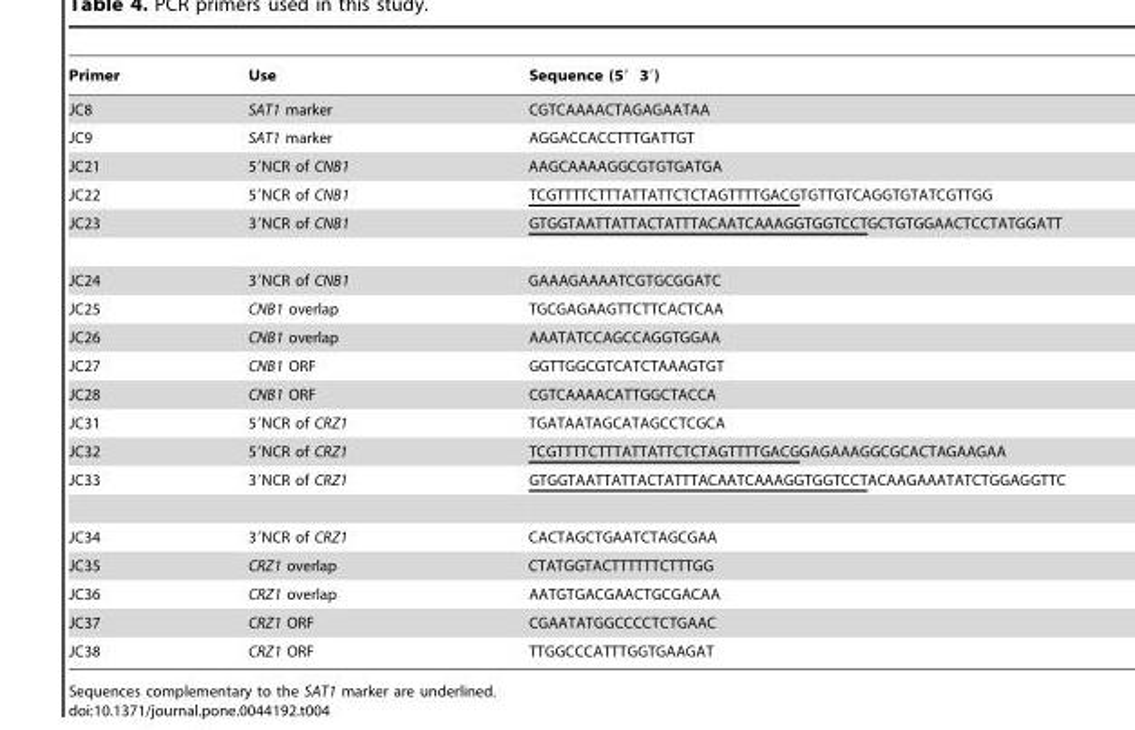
<table><thead><tr><td>Primer</td><td>Use</td><td>Sequence (5′ 3′)</td></tr></thead><tbody><tr><td>JC8</td><td>SAT1 marker</td><td>CGTCAAAACTAGAGAATAA</td></tr><tr><td>JC9</td><td>SAT1 marker</td><td>AGGACCACCTTTGATTGT</td></tr><tr><td>JC21</td><td>5′NCR of CNB1</td><td>AAGCAAAAGGCGTGTGATGA</td></tr><tr><td>JC22</td><td>5′NCR of CNB1</td><td>TCGTTTTCTTTATTATTCTCTAGTTTTGACGTGTTGTCAGGTGTATCGTTGG</td></tr><tr><td>JC23</td><td>3′NCR of CNB1</td><td>GTGGTAATTATTACTATTTACAATCAAAGGTGGTCCTGCTGTGGAACTCCTATGGATT</td></tr><tr><td>JC24</td><td>3′NCR of CNB1</td><td>GAAAGAAAATCGTGCGGATC</td></tr><tr><td>JC25</td><td>CNB1 overlap</td><td>TGCGAGAAGTTCTTCACTCAA</td></tr><tr><td>JC26</td><td>CNB1 overlap</td><td>AAATATCCAGCCAGGTGGAA</td></tr><tr><td>JC27</td><td>CNB1 ORF</td><td>GGTTGGCGTCATCTAAAGTGT</td></tr><tr><td>JC28</td><td>CNB1 ORF</td><td>CGTCAAAACATTGGCTACCA</td></tr><tr><td>JC31</td><td>5′NCR of CRZ1</td><td>TGATAATAGCATAGCCTCGCA</td></tr><tr><td>JC32</td><td>5′NCR of CRZ1</td><td>TCGTTTTCTTTATTATTCTCTAGTTTTGACGGAGAAAGGCGCACTAGAAGAA</td></tr><tr><td>JC33</td><td>3′NCR of CRZ1</td><td>GTGGTAATTATTACTATTTACAATCAAAGGTGGTCCTACAAGAAATATCTGGAGGTTC</td></tr><tr><td>JC34</td><td>3′NCR of CRZ1</td><td>CACTAGCTGAATCTAGCGAA</td></tr><tr><td>JC35</td><td>CRZ1 overlap</td><td>CTATGGTACTTTTTTCTTTGG</td></tr><tr><td>JC36</td><td>CRZ1 overlap</td><td>AATGTGACGAACTGCGACAA</td></tr><tr><td>JC37</td><td>CRZ1 ORF</td><td>CGAATATGGCCCCTCTGAAC</td></tr><tr><td>JC38</td><td>CRZ1 ORF</td><td>TTGGCCCATTTGGTGAAGAT</td></tr></tbody></table>